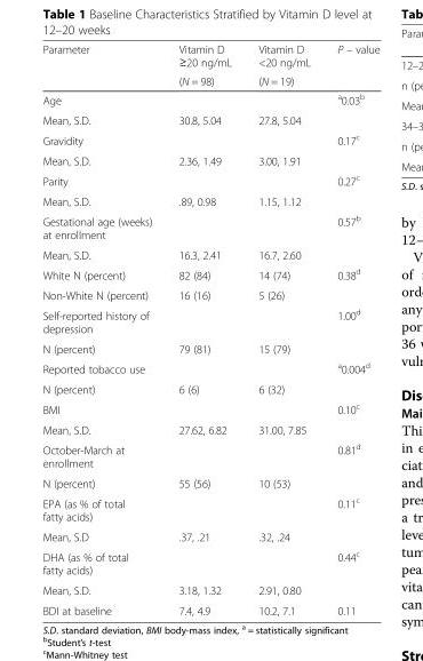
<table><thead><tr><td rowspan="2">Parameter</td><td rowspan="2">Vitamin D ≥20 ng/mL (N = 98)</td><td rowspan="2">Vitamin D &lt;20 ng/mL (N = 19)</td><td rowspan="2">P – value</td></tr><tr></tr></thead><tbody><tr><td colspan="3">Age</td><td rowspan="2"><sup>a</sup>0.03<sup>b</sup></td></tr><tr><td>Mean, S.D.</td><td>30.8, 5.04</td><td>27.8, 5.04</td></tr><tr><td colspan="3">Gravidity</td><td rowspan="2">0.17<sup>c</sup></td></tr><tr><td>Mean, S.D.</td><td>2.36, 1.49</td><td>3.00, 1.91</td></tr><tr><td colspan="3">Parity</td><td rowspan="2">0.27<sup>c</sup></td></tr><tr><td>Mean, S.D.</td><td>.89, 0.98</td><td>1.15, 1.12</td></tr><tr><td colspan="3">Gestational age (weeks) at enrollment</td><td rowspan="2">0.57<sup>b</sup></td></tr><tr><td>Mean, S.D.</td><td>16.3, 2.41</td><td>16.7, 2.60</td></tr><tr><td>White N (percent)</td><td>82 (84)</td><td>14 (74)</td><td rowspan="2">0.38<sup>d</sup></td></tr><tr><td>Non-White N (percent)</td><td>16 (16)</td><td>5 (26)</td></tr><tr><td colspan="3">Self-reported history of depression</td><td rowspan="2">1.00<sup>d</sup></td></tr><tr><td>N (percent)</td><td>79 (81)</td><td>15 (79)</td></tr><tr><td colspan="3">Reported tobacco use</td><td rowspan="2"><sup>a</sup>0.004<sup>d</sup></td></tr><tr><td>N (percent)</td><td>6 (6)</td><td>6 (32)</td></tr><tr><td colspan="3">BMI</td><td rowspan="2">0.10<sup>c</sup></td></tr><tr><td>Mean, S.D.</td><td>27.62, 6.82</td><td>31.00, 7.85</td></tr><tr><td colspan="3">October-March at enrollment</td><td rowspan="2">0.81<sup>d</sup></td></tr><tr><td>N (percent)</td><td>55 (56)</td><td>10 (53)</td></tr><tr><td colspan="3">EPA (as % of total fatty acids)</td><td rowspan="2">0.11<sup>c</sup></td></tr><tr><td>Mean, S.D</td><td>.37, .21</td><td>.32, .24</td></tr><tr><td colspan="3">DHA (as % of total fatty acids)</td><td rowspan="2">0.44<sup>c</sup></td></tr><tr><td>Mean, S.D.</td><td>3.18, 1.32</td><td>2.91, 0.80</td></tr><tr><td>BDI at baseline</td><td>7.4, 4.9</td><td>10.2, 7.1</td><td>0.11</td></tr></tbody></table>